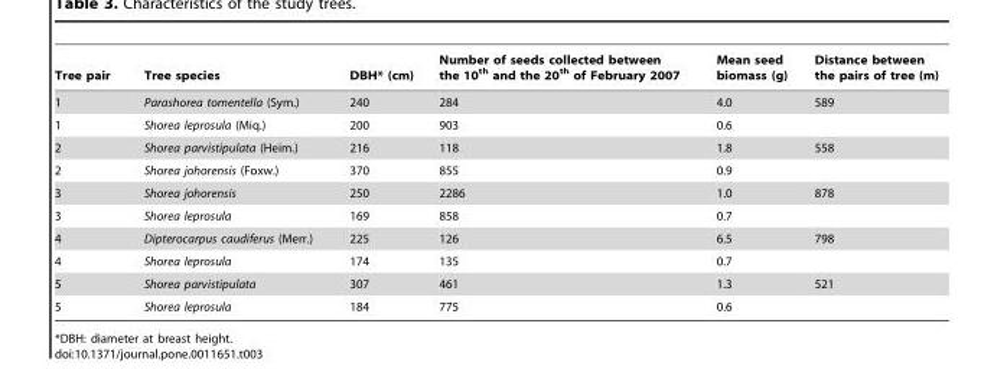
<table><thead><tr><td>Tree pair</td><td>Tree species</td><td>DBH* (cm)</td><td>Number of seeds collected between the 10<sup>th</sup> and the 20<sup>th</sup> of February 2007</td><td>Mean seed biomass (g)</td><td>Distance between the pairs of tree (m)</td></tr></thead><tbody><tr><td>1</td><td>Parashorea tomentella (Sym.)</td><td>240</td><td>284</td><td>4.0</td><td>589</td></tr><tr><td>1</td><td>Shorea leprosula (Miq.)</td><td>200</td><td>903</td><td>0.6</td><td></td></tr><tr><td>2</td><td>Shorea parvistipulata (Heim.)</td><td>216</td><td>118</td><td>1.8</td><td>558</td></tr><tr><td>2</td><td>Shorea johorensis (Foxw.)</td><td>370</td><td>855</td><td>0.9</td><td></td></tr><tr><td>3</td><td>Shorea johorensis</td><td>250</td><td>2286</td><td>1.0</td><td>878</td></tr><tr><td>3</td><td>Shorea leprosula</td><td>169</td><td>858</td><td>0.7</td><td></td></tr><tr><td>4</td><td>Dipterocarpus caudiferus (Merr.)</td><td>225</td><td>126</td><td>6.5</td><td>798</td></tr><tr><td>4</td><td>Shorea leprosula</td><td>174</td><td>135</td><td>0.7</td><td></td></tr><tr><td>5</td><td>Shorea parvistipulata</td><td>307</td><td>461</td><td>1.3</td><td>521</td></tr><tr><td>5</td><td>Shorea leprosula</td><td>184</td><td>775</td><td>0.6</td><td></td></tr></tbody></table>